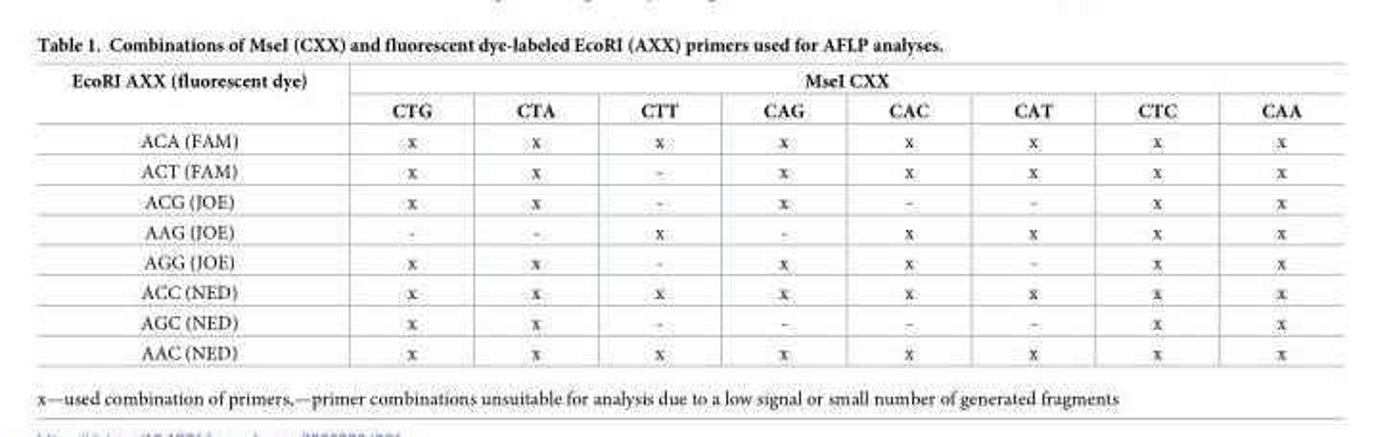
<table><thead><tr><td rowspan="2">EcoRI AXX (fluorescent dye)</td><td colspan="8">MseI CXX</td></tr><tr><td>CTG</td><td>CTA</td><td>CTT</td><td>CAG</td><td>CAC</td><td>CAT</td><td>CTC</td><td>CAA</td></tr></thead><tbody><tr><td>ACA (FAM)</td><td>x</td><td>x</td><td>x</td><td>x</td><td>x</td><td>x</td><td>x</td><td>x</td></tr><tr><td>ACT (FAM)</td><td>x</td><td>x</td><td>-</td><td>x</td><td>x</td><td>x</td><td>x</td><td>x</td></tr><tr><td>ACG (JOE)</td><td>x</td><td>x</td><td>-</td><td>x</td><td>-</td><td>-</td><td>x</td><td>x</td></tr><tr><td>AAG (JOE)</td><td>-</td><td>-</td><td>x</td><td>-</td><td>x</td><td>x</td><td>x</td><td>x</td></tr><tr><td>AGG (JOE)</td><td>x</td><td>x</td><td>-</td><td>x</td><td>x</td><td>-</td><td>x</td><td>x</td></tr><tr><td>ACC (NED)</td><td>x</td><td>x</td><td>x</td><td>x</td><td>x</td><td>x</td><td>x</td><td>x</td></tr><tr><td>AGC (NED)</td><td>x</td><td>x</td><td>-</td><td>-</td><td>-</td><td>-</td><td>x</td><td>x</td></tr><tr><td>AAC (NED)</td><td>x</td><td>x</td><td>x</td><td>x</td><td>x</td><td>x</td><td>x</td><td>x</td></tr></tbody></table>